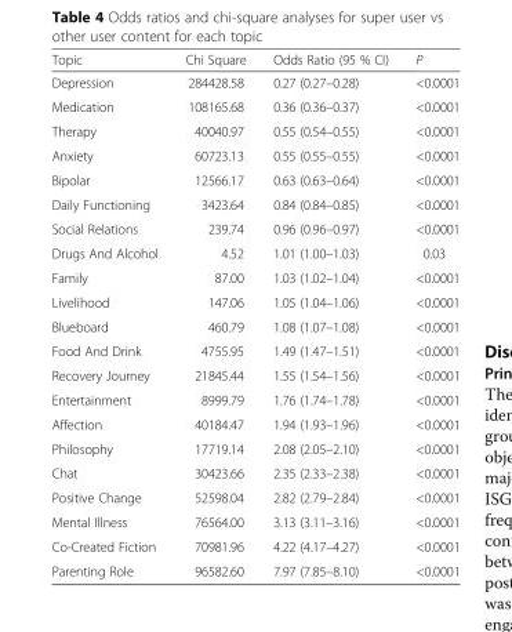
<table><thead><tr><td>Topic</td><td>Chi Square</td><td>Odds Ratio (95 % CI)</td><td>P</td></tr></thead><tbody><tr><td>Depression</td><td>284428.58</td><td>0.27 (0.27–0.28)</td><td>&lt;0.0001</td></tr><tr><td>Medication</td><td>108165.68</td><td>0.36 (0.36–0.37)</td><td>&lt;0.0001</td></tr><tr><td>Therapy</td><td>40040.97</td><td>0.55 (0.54–0.55)</td><td>&lt;0.0001</td></tr><tr><td>Anxiety</td><td>60723.13</td><td>0.55 (0.55–0.55)</td><td>&lt;0.0001</td></tr><tr><td>Bipolar</td><td>12566.17</td><td>0.63 (0.63–0.64)</td><td>&lt;0.0001</td></tr><tr><td>Daily Functioning</td><td>3423.64</td><td>0.84 (0.84–0.85)</td><td>&lt;0.0001</td></tr><tr><td>Social Relations</td><td>239.74</td><td>0.96 (0.96–0.97)</td><td>&lt;0.0001</td></tr><tr><td>Drugs And Alcohol</td><td>4.52</td><td>1.01 (1.00–1.03)</td><td>0.03</td></tr><tr><td>Family</td><td>87.00</td><td>1.03 (1.02–1.04)</td><td>&lt;0.0001</td></tr><tr><td>Livelihood</td><td>147.06</td><td>1.05 (1.04–1.06)</td><td>&lt;0.0001</td></tr><tr><td>Blueboard</td><td>460.79</td><td>1.08 (1.07–1.08)</td><td>&lt;0.0001</td></tr><tr><td>Food And Drink</td><td>4755.95</td><td>1.49 (1.47–1.51)</td><td>&lt;0.0001</td></tr><tr><td>Recovery Journey</td><td>21845.44</td><td>1.55 (1.54–1.56)</td><td>&lt;0.0001</td></tr><tr><td>Entertainment</td><td>8999.79</td><td>1.76 (1.74–1.78)</td><td>&lt;0.0001</td></tr><tr><td>Affection</td><td>40184.47</td><td>1.94 (1.93–1.96)</td><td>&lt;0.0001</td></tr><tr><td>Philosophy</td><td>17719.14</td><td>2.08 (2.05–2.10)</td><td>&lt;0.0001</td></tr><tr><td>Chat</td><td>30423.66</td><td>2.35 (2.33–2.38)</td><td>&lt;0.0001</td></tr><tr><td>Positive Change</td><td>52598.04</td><td>2.82 (2.79–2.84)</td><td>&lt;0.0001</td></tr><tr><td>Mental Illness</td><td>76564.00</td><td>3.13 (3.11–3.16)</td><td>&lt;0.0001</td></tr><tr><td>Co-Created Fiction</td><td>70981.96</td><td>4.22 (4.17–4.27)</td><td>&lt;0.0001</td></tr><tr><td>Parenting Role</td><td>96582.60</td><td>7.97 (7.85–8.10)</td><td>&lt;0.0001</td></tr></tbody></table>